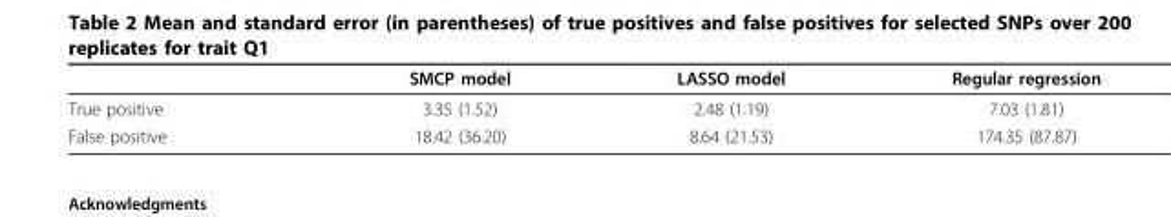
<table><thead><tr><td></td><td>SMCP model</td><td>LASSO model</td><td>Regular regression</td></tr></thead><tbody><tr><td>True positive</td><td>3.35 (1.52)</td><td>2.48 (1.19)</td><td>7.03 (1.81)</td></tr><tr><td>False positive</td><td>18.42 (36.20)</td><td>8.64 (21.53)</td><td>174.35 (87.87)</td></tr></tbody></table>